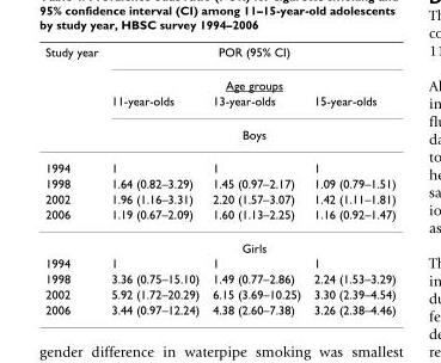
<table><thead><tr><td rowspan="4">Study year</td><td rowspan="2" colspan="3">POR (95% CI) Age groups</td></tr><tr></tr><tr><td>11-year-olds</td><td>13-year-olds</td><td>15-year-olds</td></tr><tr><td colspan="3">Boys</td></tr></thead><tbody><tr><td>1994</td><td>1</td><td>1</td><td>1</td></tr><tr><td>1998</td><td>1.64 (0.82–3.29)</td><td>1.45 (0.97–2.17)</td><td>1.09 (0.79–1.51)</td></tr><tr><td>2002</td><td>1.96 (1.16–3.31)</td><td>2.20 (1.57–3.07)</td><td>1.42 (1.11–1.81)</td></tr><tr><td rowspan="2">2006</td><td>1.19 (0.67–2.09)</td><td>1.60 (1.13–2.25)</td><td>1.16 (0.92–1.47)</td></tr><tr><td colspan="3">Girls</td></tr><tr><td>1994</td><td>1</td><td>1</td><td>1</td></tr><tr><td>1998</td><td>3.36 (0.75–15.10)</td><td>1.49 (0.77–2.86)</td><td>2.24 (1.53–3.29)</td></tr><tr><td>2002</td><td>5.92 (1.72–20.29)</td><td>6.15 (3.69–10.25)</td><td>3.30 (2.39–4.54)</td></tr><tr><td>2006</td><td>3.44 (0.97–12.24)</td><td>4.38 (2.60–7.38)</td><td>3.26 (2.38–4.46)</td></tr></tbody></table>